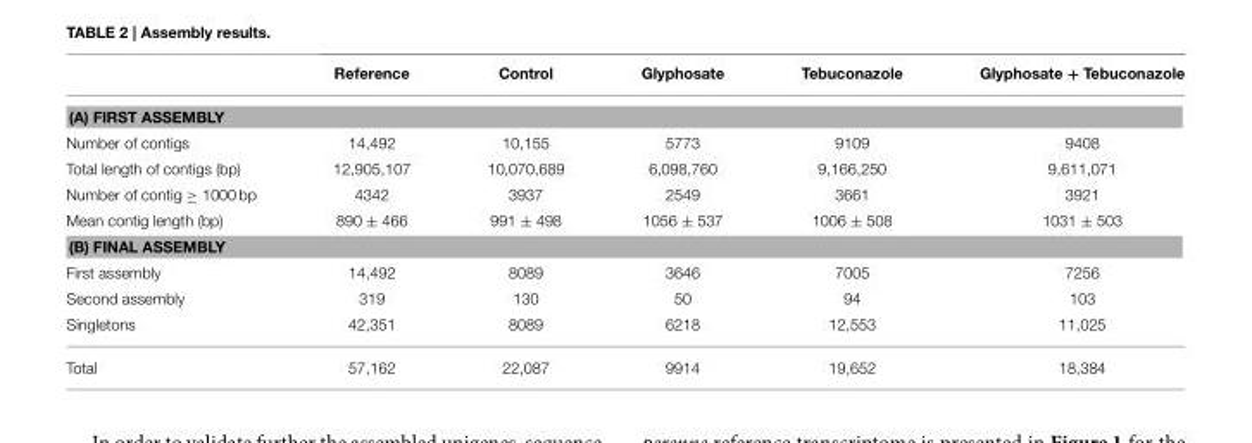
<table><thead><tr><td></td><td>Reference</td><td>Control</td><td>Glyphosate</td><td>Tebuconazole</td><td>Glyphosate + Tebuconazole</td></tr></thead><tbody><tr><td colspan="6">(A) FIRST ASSEMBLY</td></tr><tr><td>Number of contigs</td><td>14,492</td><td>10,155</td><td>5773</td><td>9109</td><td>9408</td></tr><tr><td>Total length of contigs (bp)</td><td>12,905,107</td><td>10,070,689</td><td>6,098,760</td><td>9,166,250</td><td>9,611,071</td></tr><tr><td>Number of contig ≥ 1000 bp</td><td>4342</td><td>3937</td><td>2549</td><td>3661</td><td>3921</td></tr><tr><td>Mean contig length (bp)</td><td>890 ± 466</td><td>991 ± 498</td><td>1056 ± 537</td><td>1006 ± 508</td><td>1031 ± 503</td></tr><tr><td colspan="6">(B) FINAL ASSEMBLY</td></tr><tr><td>First assembly</td><td>14,492</td><td>8089</td><td>3646</td><td>7005</td><td>7256</td></tr><tr><td>Second assembly</td><td>319</td><td>130</td><td>50</td><td>94</td><td>103</td></tr><tr><td>Singletons</td><td>42,351</td><td>8089</td><td>6218</td><td>12,553</td><td>11,025</td></tr><tr><td>Total</td><td>57,162</td><td>22,087</td><td>9914</td><td>19,652</td><td>18,384</td></tr></tbody></table>